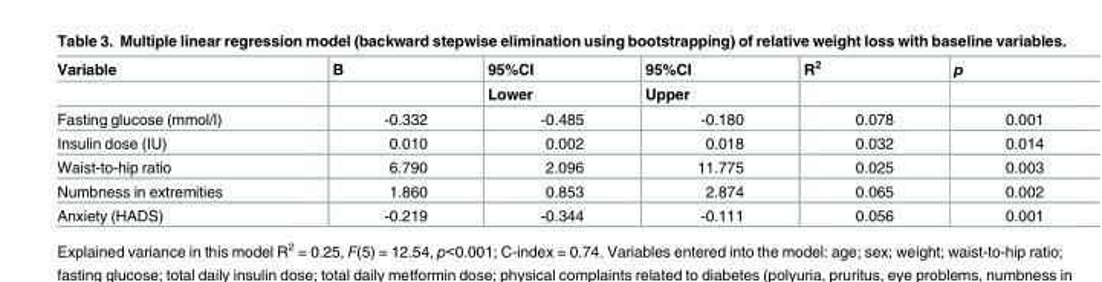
<table><thead><tr><td rowspan="2">Variable</td><td rowspan="2">B</td><td rowspan="2">95%CI Lower</td><td rowspan="2">95%CI Upper</td><td rowspan="2">R<sup>2</sup></td><td rowspan="2">p</td></tr><tr></tr></thead><tbody><tr><td>Fasting glucose (mmol/l)</td><td>-0.332</td><td>-0.485</td><td>-0.180</td><td>0.078</td><td>0.001</td></tr><tr><td>Insulin dose (IU)</td><td>0.010</td><td>0.002</td><td>0.018</td><td>0.032</td><td>0.014</td></tr><tr><td>Waist-to-hip ratio</td><td>6.790</td><td>2.096</td><td>11.775</td><td>0.025</td><td>0.003</td></tr><tr><td>Numbness in extremities</td><td>1.860</td><td>0.853</td><td>2.874</td><td>0.065</td><td>0.002</td></tr><tr><td>Anxiety (HADS)</td><td>-0.219</td><td>-0.344</td><td>-0.111</td><td>0.056</td><td>0.001</td></tr></tbody></table>